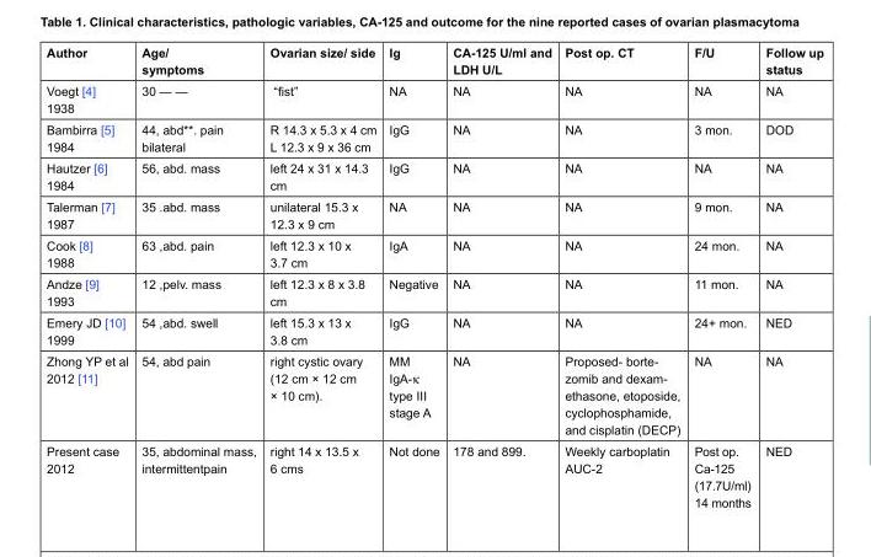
<table><thead><tr><td>Author</td><td>Age/ symptoms</td><td>Ovarian size/ side</td><td>Ig</td><td>CA-125 U/ml and LDH U/L</td><td>Post op. CT</td><td>F/U</td><td>Follow up status</td></tr></thead><tbody><tr><td>Voegt [4] 1938</td><td>30 — —</td><td>“fist”</td><td>NA</td><td>NA</td><td>NA</td><td>NA</td><td>NA</td></tr><tr><td>Bambirra [5] 1984</td><td>44, abd**. pain bilateral</td><td>R 14.3 x 5.3 x 4 cm L 12.3 x 9 x 36 cm</td><td>IgG</td><td>NA</td><td>NA</td><td>3 mon.</td><td>DOD</td></tr><tr><td>Hautzer [6] 1984</td><td>56, abd. mass</td><td>left 24 x 31 x 14.3 cm</td><td>IgG</td><td>NA</td><td>NA</td><td>NA</td><td>NA</td></tr><tr><td>Talerman [7] 1987</td><td>35 .abd. mass</td><td>unilateral 15.3 x 12.3 x 9 cm</td><td>NA</td><td>NA</td><td>NA</td><td>9 mon.</td><td>NA</td></tr><tr><td>Cook [8] 1988</td><td>63 ,abd. pain</td><td>left 12.3 x 10 x 3.7 cm</td><td>IgA</td><td>NA</td><td>NA</td><td>24 mon.</td><td>NA</td></tr><tr><td>Andze [9] 1993</td><td>12 ,pelv. mass</td><td>left 12.3 x 8 x 3.8 cm</td><td>Negative</td><td>NA</td><td>NA</td><td>11 mon.</td><td>NA</td></tr><tr><td>Emery JD [10] 1999</td><td>54 ,abd. swell</td><td>left 15.3 x 13 x 3.8 cm</td><td>IgG</td><td>NA</td><td>NA</td><td>24+ mon.</td><td>NED</td></tr><tr><td>Zhong YP et al 2012 [11]</td><td>54, abd pain</td><td>right cystic ovary (12 cm × 12 cm × 10 cm).</td><td>MM IgA-κ type III stage A</td><td>NA</td><td>Proposed- borte- zomib and dexam- ethasone, etoposide, cyclophosphamide, and cisplatin (DECP)</td><td>NA</td><td>NA</td></tr><tr><td>Present case 2012</td><td>35, abdominal mass, intermittentpain</td><td>right 14 x 13.5 x 6 cms</td><td>Not done</td><td>178 and 899.</td><td>Weekly carboplatin AUC-2</td><td>Post op. Ca-125 (17.7U/ml) 14 months</td><td>NED</td></tr></tbody></table>